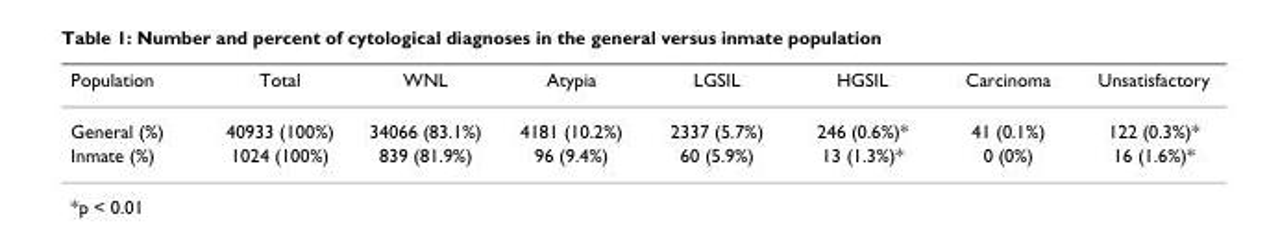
<table><thead><tr><td>Population</td><td>Total</td><td>WNL</td><td>Atypia</td><td>LGSIL</td><td>HGSIL</td><td>Carcinoma</td><td>Unsatisfactory</td></tr></thead><tbody><tr><td>General (%)</td><td>40933 (100%)</td><td>34066 (83.1%)</td><td>4181 (10.2%)</td><td>2337 (5.7%)</td><td>246 (0.6%)*</td><td>41 (0.1%)</td><td>122 (0.3%)*</td></tr><tr><td>Inmate (%)</td><td>1024 (100%)</td><td>839 (81.9%)</td><td>96 (9.4%)</td><td>60 (5.9%)</td><td>13 (1.3%)*</td><td>0 (0%)</td><td>16 (1.6%)*</td></tr></tbody></table>